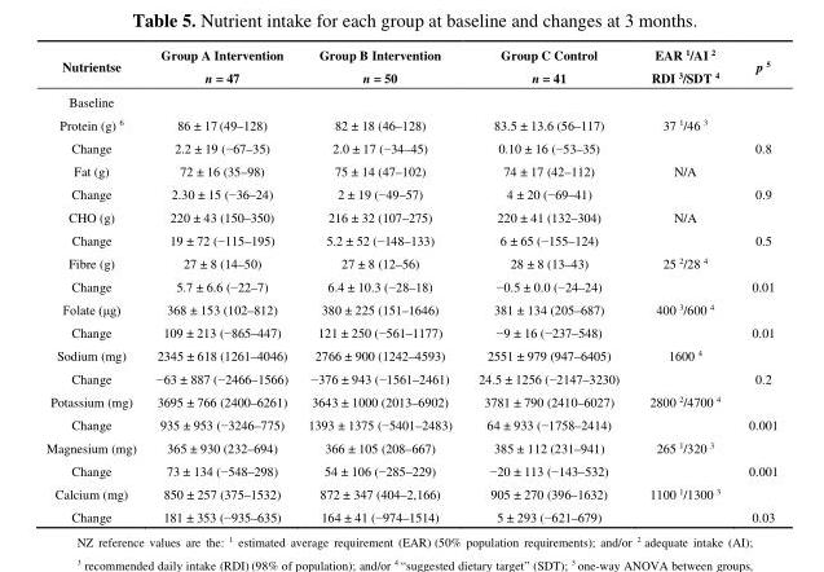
<table><thead><tr><td>Nutrientse</td><td>Group A Intervention n = 47</td><td>Group B Intervention n = 50</td><td>Group C Control n = 41</td><td>EAR <sup>1</sup>/AI <sup>2</sup> RDI <sup>3</sup>/SDT <sup>4</sup></td><td>p <sup>5</sup></td></tr></thead><tbody><tr><td colspan="6">Baseline</td></tr><tr><td>Protein (g) <sup>6</sup></td><td>86 ± 17 (49–128)</td><td>82 ± 18 (46–128)</td><td>83.5 ± 13.6 (56–117)</td><td>37 <sup>1</sup>/46 <sup>3</sup></td><td></td></tr><tr><td>Change</td><td>2.2 ± 19 (−67–35)</td><td>2.0 ± 17 (−34–45)</td><td>0.10 ± 16 (−53–35)</td><td></td><td>0.8</td></tr><tr><td>Fat (g)</td><td>72 ± 16 (35–98)</td><td>75 ± 14 (47–102)</td><td>74 ± 17 (42–112)</td><td>N/A</td><td></td></tr><tr><td>Change</td><td>2.30 ± 15 (−36–24)</td><td>2 ± 19 (−49–57)</td><td>4 ± 20 (−69–41)</td><td></td><td>0.9</td></tr><tr><td>CHO (g)</td><td>220 ± 43 (150–350)</td><td>216 ± 32 (107–275)</td><td>220 ± 41 (132–304)</td><td>N/A</td><td></td></tr><tr><td>Change</td><td>19 ± 72 (−115–195)</td><td>5.2 ± 52 (−148–133)</td><td>6 ± 65 (−155–124)</td><td></td><td>0.5</td></tr><tr><td>Fibre (g)</td><td>27 ± 8 (14–50)</td><td>27 ± 8 (12–56)</td><td>28 ± 8 (13–43)</td><td>25 <sup>2</sup>/28 <sup>4</sup></td><td></td></tr><tr><td>Change</td><td>5.7 ± 6.6 (−22–7)</td><td>6.4 ± 10.3 (−28–18)</td><td>−0.5 ± 0.0 (−24–24)</td><td></td><td>0.01</td></tr><tr><td>Folate (μg)</td><td>368 ± 153 (102–812)</td><td>380 ± 225 (151–1646)</td><td>381 ± 134 (205–687)</td><td>400 <sup>3</sup>/600 <sup>4</sup></td><td></td></tr><tr><td>Change</td><td>109 ± 213 (−865–447)</td><td>121 ± 250 (−561–1177)</td><td>−9 ± 16 (−237–548)</td><td></td><td>0.01</td></tr><tr><td>Sodium (mg)</td><td>2345 ± 618 (1261–4046)</td><td>2766 ± 900 (1242–4593)</td><td>2551 ± 979 (947–6405)</td><td>1600 <sup>4</sup></td><td></td></tr><tr><td>Change</td><td>−63 ± 887 (−2466–1566)</td><td>−376 ± 943 (−1561–2461)</td><td>24.5 ± 1256 (−2147–3230)</td><td></td><td>0.2</td></tr><tr><td>Potassium (mg)</td><td>3695 ± 766 (2400–6261)</td><td>3643 ± 1000 (2013–6902)</td><td>3781 ± 790 (2410–6027)</td><td>2800 <sup>2</sup>/4700 <sup>4</sup></td><td></td></tr><tr><td>Change</td><td>935 ± 953 (−3246–775)</td><td>1393 ± 1375 (−5401–2483)</td><td>64 ± 933 (−1758–2414)</td><td></td><td>0.001</td></tr><tr><td>Magnesium (mg)</td><td>365 ± 930 (232–694)</td><td>366 ± 105 (208–667)</td><td>385 ± 112 (231–941)</td><td>265 <sup>1</sup>/320 <sup>3</sup></td><td></td></tr><tr><td>Change</td><td>73 ± 134 (−548–298)</td><td>54 ± 106 (−285–229)</td><td>−20 ± 113 (−143–532)</td><td></td><td>0.001</td></tr><tr><td>Calcium (mg)</td><td>850 ± 257 (375–1532)</td><td>872 ± 347 (404–2,166)</td><td>905 ± 270 (396–1632)</td><td>1100 <sup>1</sup>/1300 <sup>3</sup></td><td></td></tr><tr><td>Change</td><td>181 ± 353 (−935–635)</td><td>164 ± 41 (−974–1514)</td><td>5 ± 293 (−621–679)</td><td></td><td>0.03</td></tr></tbody></table>